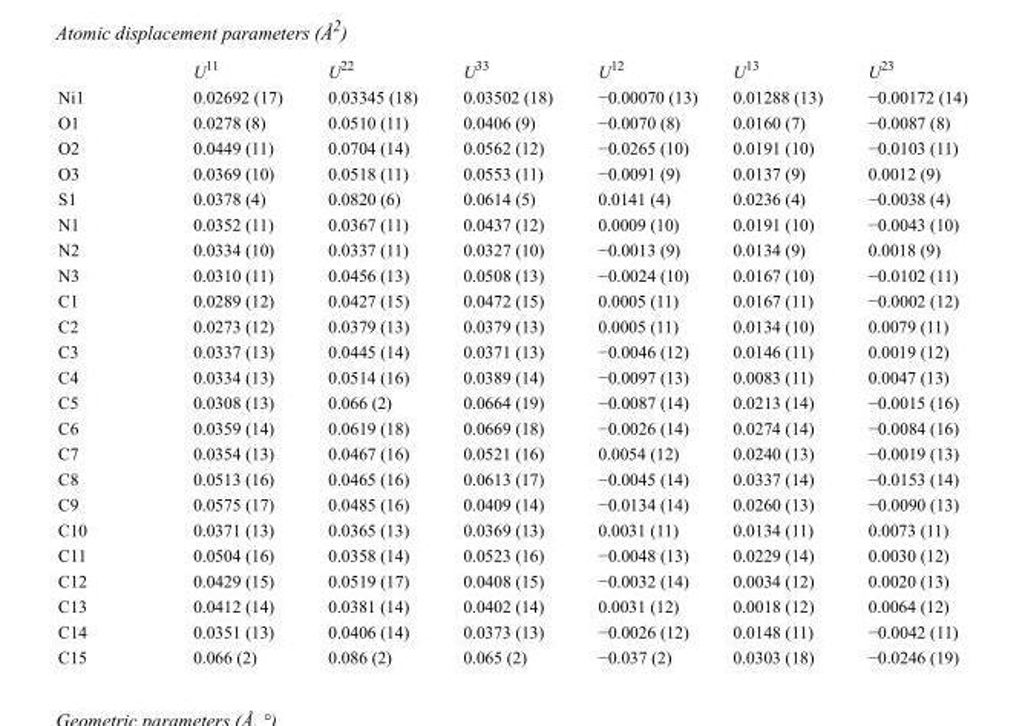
<table><thead><tr><td></td><td>U<sup>11</sup></td><td>U<sup>22</sup></td><td>U<sup>33</sup></td><td>U<sup>12</sup></td><td>U<sup>13</sup></td><td>U<sup>23</sup></td></tr></thead><tbody><tr><td>Ni1</td><td>0.02692 (17)</td><td>0.03345 (18)</td><td>0.03502 (18)</td><td>−0.00070 (13)</td><td>0.01288 (13)</td><td>−0.00172 (14)</td></tr><tr><td>O1</td><td>0.0278 (8)</td><td>0.0510 (11)</td><td>0.0406 (9)</td><td>−0.0070 (8)</td><td>0.0160 (7)</td><td>−0.0087 (8)</td></tr><tr><td>O2</td><td>0.0449 (11)</td><td>0.0704 (14)</td><td>0.0562 (12)</td><td>−0.0265 (10)</td><td>0.0191 (10)</td><td>−0.0103 (11)</td></tr><tr><td>O3</td><td>0.0369 (10)</td><td>0.0518 (11)</td><td>0.0553 (11)</td><td>−0.0091 (9)</td><td>0.0137 (9)</td><td>0.0012 (9)</td></tr><tr><td>S1</td><td>0.0378 (4)</td><td>0.0820 (6)</td><td>0.0614 (5)</td><td>0.0141 (4)</td><td>0.0236 (4)</td><td>−0.0038 (4)</td></tr><tr><td>N1</td><td>0.0352 (11)</td><td>0.0367 (11)</td><td>0.0437 (12)</td><td>0.0009 (10)</td><td>0.0191 (10)</td><td>−0.0043 (10)</td></tr><tr><td>N2</td><td>0.0334 (10)</td><td>0.0337 (11)</td><td>0.0327 (10)</td><td>−0.0013 (9)</td><td>0.0134 (9)</td><td>0.0018 (9)</td></tr><tr><td>N3</td><td>0.0310 (11)</td><td>0.0456 (13)</td><td>0.0508 (13)</td><td>−0.0024 (10)</td><td>0.0167 (10)</td><td>−0.0102 (11)</td></tr><tr><td>C1</td><td>0.0289 (12)</td><td>0.0427 (15)</td><td>0.0472 (15)</td><td>0.0005 (11)</td><td>0.0167 (11)</td><td>−0.0002 (12)</td></tr><tr><td>C2</td><td>0.0273 (12)</td><td>0.0379 (13)</td><td>0.0379 (13)</td><td>0.0005 (11)</td><td>0.0134 (10)</td><td>0.0079 (11)</td></tr><tr><td>C3</td><td>0.0337 (13)</td><td>0.0445 (14)</td><td>0.0371 (13)</td><td>−0.0046 (12)</td><td>0.0146 (11)</td><td>0.0019 (12)</td></tr><tr><td>C4</td><td>0.0334 (13)</td><td>0.0514 (16)</td><td>0.0389 (14)</td><td>−0.0097 (13)</td><td>0.0083 (11)</td><td>0.0047 (13)</td></tr><tr><td>C5</td><td>0.0308 (13)</td><td>0.066 (2)</td><td>0.0664 (19)</td><td>−0.0087 (14)</td><td>0.0213 (14)</td><td>−0.0015 (16)</td></tr><tr><td>C6</td><td>0.0359 (14)</td><td>0.0619 (18)</td><td>0.0669 (18)</td><td>−0.0026 (14)</td><td>0.0274 (14)</td><td>−0.0084 (16)</td></tr><tr><td>C7</td><td>0.0354 (13)</td><td>0.0467 (16)</td><td>0.0521 (16)</td><td>0.0054 (12)</td><td>0.0240 (13)</td><td>−0.0019 (13)</td></tr><tr><td>C8</td><td>0.0513 (16)</td><td>0.0465 (16)</td><td>0.0613 (17)</td><td>−0.0045 (14)</td><td>0.0337 (14)</td><td>−0.0153 (14)</td></tr><tr><td>C9</td><td>0.0575 (17)</td><td>0.0485 (16)</td><td>0.0409 (14)</td><td>−0.0134 (14)</td><td>0.0260 (13)</td><td>−0.0090 (13)</td></tr><tr><td>C10</td><td>0.0371 (13)</td><td>0.0365 (13)</td><td>0.0369 (13)</td><td>0.0031 (11)</td><td>0.0134 (11)</td><td>0.0073 (11)</td></tr><tr><td>C11</td><td>0.0504 (16)</td><td>0.0358 (14)</td><td>0.0523 (16)</td><td>−0.0048 (13)</td><td>0.0229 (14)</td><td>0.0030 (12)</td></tr><tr><td>C12</td><td>0.0429 (15)</td><td>0.0519 (17)</td><td>0.0408 (15)</td><td>−0.0032 (14)</td><td>0.0034 (12)</td><td>0.0020 (13)</td></tr><tr><td>C13</td><td>0.0412 (14)</td><td>0.0381 (14)</td><td>0.0402 (14)</td><td>0.0031 (12)</td><td>0.0018 (12)</td><td>0.0064 (12)</td></tr><tr><td>C14</td><td>0.0351 (13)</td><td>0.0406 (14)</td><td>0.0373 (13)</td><td>−0.0026 (12)</td><td>0.0148 (11)</td><td>−0.0042 (11)</td></tr><tr><td>C15</td><td>0.066 (2)</td><td>0.086 (2)</td><td>0.065 (2)</td><td>−0.037 (2)</td><td>0.0303 (18)</td><td>−0.0246 (19)</td></tr></tbody></table>